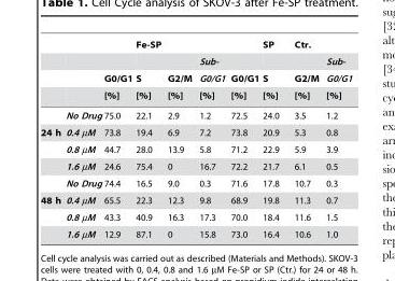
<table><thead><tr><td rowspan="4"></td><td rowspan="4"></td><td rowspan="4">G0/G1 [%]</td><td rowspan="4">Fe-SP S [%]</td><td rowspan="4">G2/M [%]</td><td rowspan="4">Sub- G0/G1 [%]</td><td rowspan="4">G0/G1 [%]</td><td rowspan="4">SP S [%]</td><td rowspan="4">Ctr. G2/M [%]</td><td rowspan="4">Sub- G0/G1 [%]</td></tr><tr></tr><tr></tr><tr></tr></thead><tbody><tr><td></td><td>No Drug</td><td>75.0</td><td>22.1</td><td>2.9</td><td>1.2</td><td>72.5</td><td>24.0</td><td>3.5</td><td>1.2</td></tr><tr><td rowspan="4">24 h</td><td>0.4 µM</td><td>73.8</td><td>19.4</td><td>6.9</td><td>7.2</td><td>73.8</td><td>20.9</td><td>5.3</td><td>0.8</td></tr><tr><td>0.8 µM</td><td>44.7</td><td>28.0</td><td>13.9</td><td>5.8</td><td>71.2</td><td>22.9</td><td>5.9</td><td>3.9</td></tr><tr><td>1.6 µM</td><td>24.6</td><td>75.4</td><td>0</td><td>16.7</td><td>72.2</td><td>21.7</td><td>6.1</td><td>0.5</td></tr><tr><td>No Drug</td><td>74.4</td><td>16.5</td><td>9.0</td><td>0.3</td><td>71.6</td><td>17.8</td><td>10.7</td><td>0.3</td></tr><tr><td rowspan="3">48 h</td><td>0.4 µM</td><td>65.5</td><td>22.3</td><td>12.3</td><td>9.8</td><td>68.9</td><td>19.8</td><td>11.3</td><td>0.7</td></tr><tr><td>0.8 µM</td><td>43.3</td><td>40.9</td><td>16.3</td><td>17.3</td><td>70.0</td><td>18.4</td><td>11.6</td><td>1.5</td></tr><tr><td>1.6 µM</td><td>12.9</td><td>87.1</td><td>0</td><td>15.8</td><td>73.0</td><td>16.4</td><td>10.6</td><td>1.0</td></tr></tbody></table>